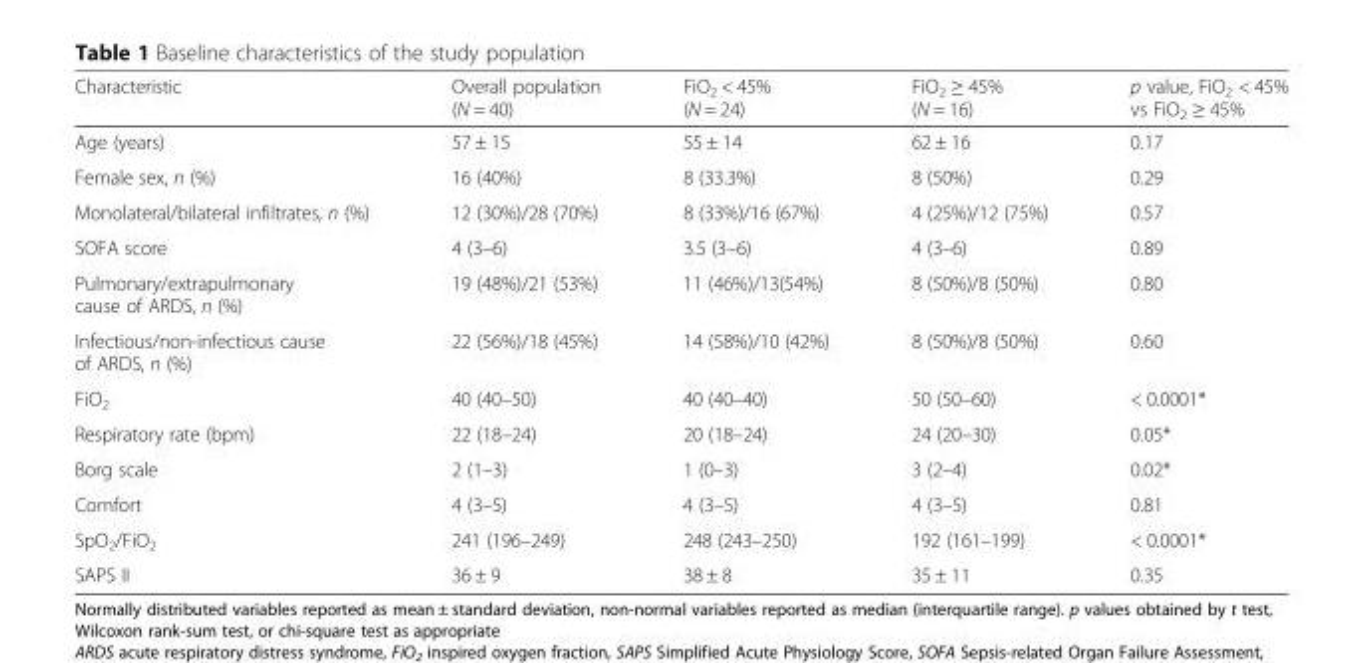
<table><thead><tr><td>Characteristic</td><td>Overall population (N = 40)</td><td>FiO<sub>2</sub> &lt; 45% (N = 24)</td><td>FiO<sub>2</sub> ≥ 45% (N = 16)</td><td>p value, FiO<sub>2</sub> &lt; 45% vs FiO<sub>2</sub> ≥ 45%</td></tr></thead><tbody><tr><td>Age (years)</td><td>57 ± 15</td><td>55 ± 14</td><td>62 ± 16</td><td>0.17</td></tr><tr><td>Female sex, n (%)</td><td>16 (40%)</td><td>8 (33.3%)</td><td>8 (50%)</td><td>0.29</td></tr><tr><td>Monolateral/bilateral infiltrates, n (%)</td><td>12 (30%)/28 (70%)</td><td>8 (33%)/16 (67%)</td><td>4 (25%)/12 (75%)</td><td>0.57</td></tr><tr><td>SOFA score</td><td>4 (3–6)</td><td>3.5 (3–6)</td><td>4 (3–6)</td><td>0.89</td></tr><tr><td>Pulmonary/extrapulmonary cause of ARDS, n (%)</td><td>19 (48%)/21 (53%)</td><td>11 (46%)/13(54%)</td><td>8 (50%)/8 (50%)</td><td>0.80</td></tr><tr><td>Infectious/non-infectious cause of ARDS, n (%)</td><td>22 (56%)/18 (45%)</td><td>14 (58%)/10 (42%)</td><td>8 (50%)/8 (50%)</td><td>0.60</td></tr><tr><td>FiO<sub>2</sub></td><td>40 (40–50)</td><td>40 (40–40)</td><td>50 (50–60)</td><td>&lt; 0.0001*</td></tr><tr><td>Respiratory rate (bpm)</td><td>22 (18–24)</td><td>20 (18–24)</td><td>24 (20–30)</td><td>0.05*</td></tr><tr><td>Borg scale</td><td>2 (1–3)</td><td>1 (0–3)</td><td>3 (2–4)</td><td>0.02*</td></tr><tr><td>Comfort</td><td>4 (3–5)</td><td>4 (3–5)</td><td>4 (3–5)</td><td>0.81</td></tr><tr><td>SpO<sub>2</sub>/FiO<sub>2</sub></td><td>241 (196–249)</td><td>248 (243–250)</td><td>192 (161–199)</td><td>&lt; 0.0001*</td></tr><tr><td>SAPS II</td><td>36 ± 9</td><td>38 ± 8</td><td>35 ± 11</td><td>0.35</td></tr></tbody></table>